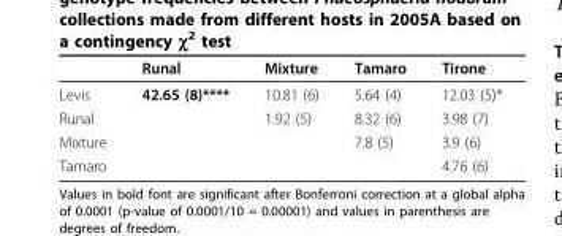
<table><thead><tr><td></td><td>Runal</td><td>Mixture</td><td>Tamaro</td><td>Tirone</td></tr></thead><tbody><tr><td>Levis</td><td>42.65 (8)****</td><td>10.81 (6)</td><td>5.64 (4)</td><td>12.03 (5)*</td></tr><tr><td>Runal</td><td></td><td>1.92 (5)</td><td>8.32 (6)</td><td>3.98 (7)</td></tr><tr><td>Mixture</td><td></td><td></td><td>7.8 (5)</td><td>3.9 (6)</td></tr><tr><td>Tamaro</td><td></td><td></td><td></td><td>4.76 (6)</td></tr></tbody></table>